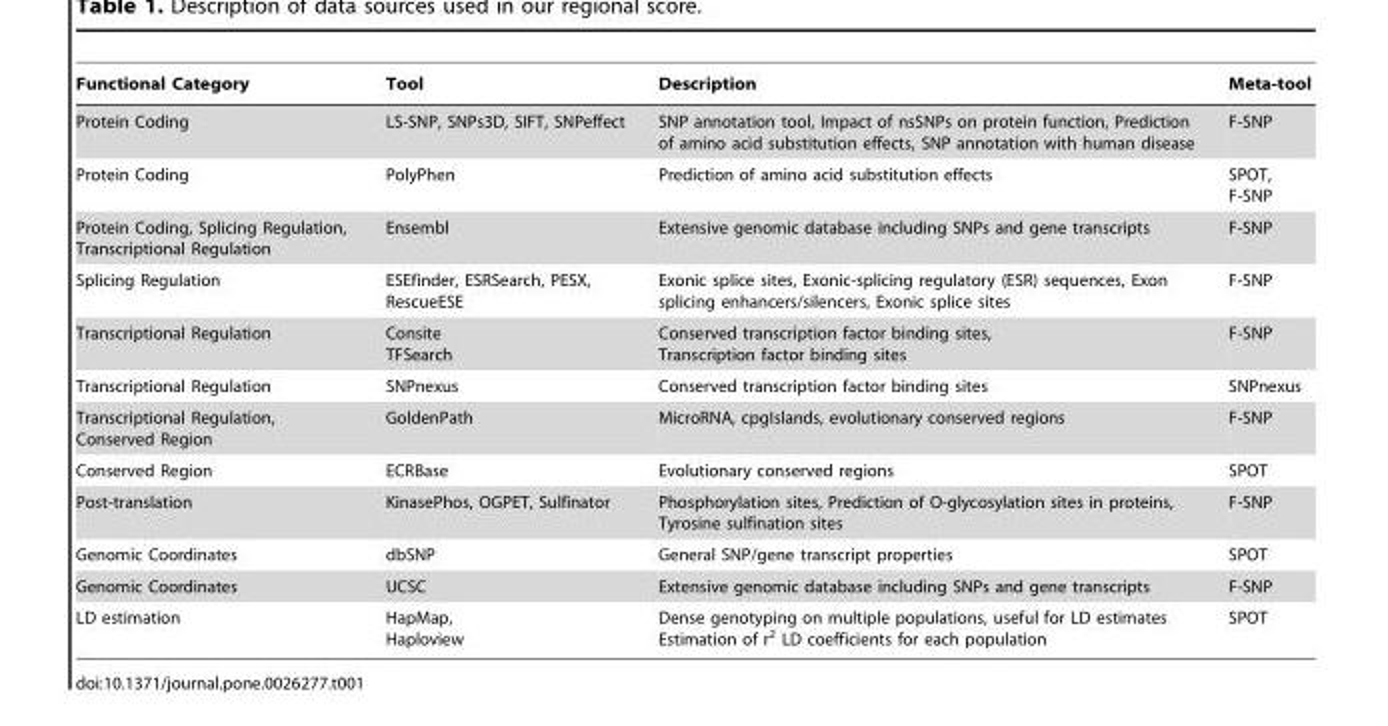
<table><thead><tr><td>Functional Category</td><td>Tool</td><td>Description</td><td>Meta-tool</td></tr></thead><tbody><tr><td>Protein Coding</td><td>LS-SNP, SNPs3D, SIFT, SNPeffect</td><td>SNP annotation tool, Impact of nsSNPs on protein function, Prediction of amino acid substitution effects, SNP annotation with human disease</td><td>F-SNP</td></tr><tr><td>Protein Coding</td><td>PolyPhen</td><td>Prediction of amino acid substitution effects</td><td>SPOT, F-SNP</td></tr><tr><td>Protein Coding, Splicing Regulation, Transcriptional Regulation</td><td>Ensembl</td><td>Extensive genomic database including SNPs and gene transcripts</td><td>F-SNP</td></tr><tr><td>Splicing Regulation</td><td>ESEfinder, ESRSearch, PESX, RescueESE</td><td>Exonic splice sites, Exonic-splicing regulatory (ESR) sequences, Exon splicing enhancers/silencers, Exonic splice sites</td><td>F-SNP</td></tr><tr><td>Transcriptional Regulation</td><td>Consite TFSearch</td><td>Conserved transcription factor binding sites, Transcription factor binding sites</td><td>F-SNP</td></tr><tr><td>Transcriptional Regulation</td><td>SNPnexus</td><td>Conserved transcription factor binding sites</td><td>SNPnexus</td></tr><tr><td>Transcriptional Regulation, Conserved Region</td><td>GoldenPath</td><td>MicroRNA, cpgIslands, evolutionary conserved regions</td><td>F-SNP</td></tr><tr><td>Conserved Region</td><td>ECRBase</td><td>Evolutionary conserved regions</td><td>SPOT</td></tr><tr><td>Post-translation</td><td>KinasePhos, OGPET, Sulfinator</td><td>Phosphorylation sites, Prediction of O-glycosylation sites in proteins, Tyrosine sulfination sites</td><td>F-SNP</td></tr><tr><td>Genomic Coordinates</td><td>dbSNP</td><td>General SNP/gene transcript properties</td><td>SPOT</td></tr><tr><td>Genomic Coordinates</td><td>UCSC</td><td>Extensive genomic database including SNPs and gene transcripts</td><td>F-SNP</td></tr><tr><td>LD estimation</td><td>HapMap, Haploview</td><td>Dense genotyping on multiple populations, useful for LD estimates Estimation of r<sup>2</sup> LD coefficients for each population</td><td>SPOT</td></tr></tbody></table>